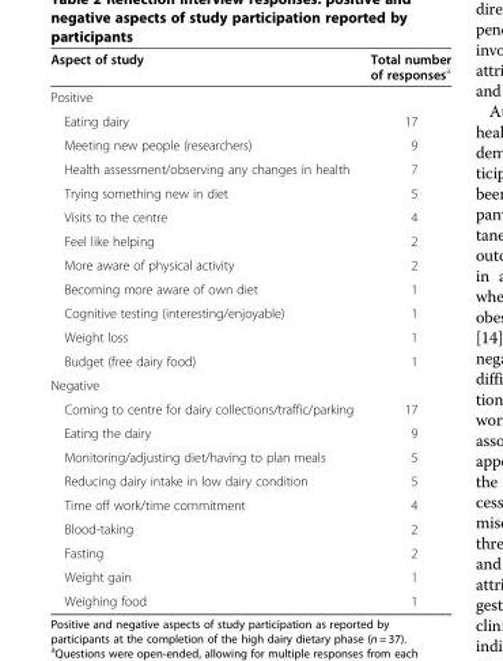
<table><thead><tr><td>Aspect of study</td><td>Total number of responses<sup>a</sup></td></tr></thead><tbody><tr><td colspan="2">Positive</td></tr><tr><td>Eating dairy</td><td>17</td></tr><tr><td>Meeting new people (researchers)</td><td>9</td></tr><tr><td>Health assessment/observing any changes in health</td><td>7</td></tr><tr><td>Trying something new in diet</td><td>5</td></tr><tr><td>Visits to the centre</td><td>4</td></tr><tr><td>Feel like helping</td><td>2</td></tr><tr><td>More aware of physical activity</td><td>2</td></tr><tr><td>Becoming more aware of own diet</td><td>1</td></tr><tr><td>Cognitive testing (interesting/enjoyable)</td><td>1</td></tr><tr><td>Weight loss</td><td>1</td></tr><tr><td>Budget (free dairy food)</td><td>1</td></tr><tr><td colspan="2">Negative</td></tr><tr><td>Coming to centre for dairy collections/traffic/parking</td><td>17</td></tr><tr><td>Eating the dairy</td><td>9</td></tr><tr><td>Monitoring/adjusting diet/having to plan meals</td><td>5</td></tr><tr><td>Reducing dairy intake in low dairy condition</td><td>5</td></tr><tr><td>Time off work/time commitment</td><td>4</td></tr><tr><td>Blood-taking</td><td>2</td></tr><tr><td>Fasting</td><td>2</td></tr><tr><td>Weight gain</td><td>1</td></tr><tr><td>Weighing food</td><td>1</td></tr></tbody></table>